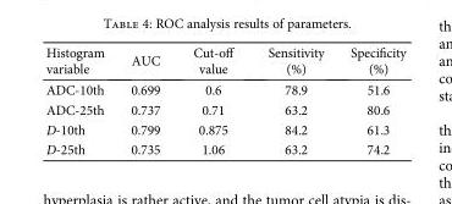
<table><thead><tr><td>Histogram variable</td><td>AUC</td><td>Cut-off value</td><td>Sensitivity (%)</td><td>Specificity (%)</td></tr></thead><tbody><tr><td>ADC-10th</td><td>0.699</td><td>0.6</td><td>78.9</td><td>51.6</td></tr><tr><td>ADC-25th</td><td>0.737</td><td>0.71</td><td>63.2</td><td>80.6</td></tr><tr><td>D-10th</td><td>0.799</td><td>0.875</td><td>84.2</td><td>61.3</td></tr><tr><td>D-25th</td><td>0.735</td><td>1.06</td><td>63.2</td><td>74.2</td></tr></tbody></table>